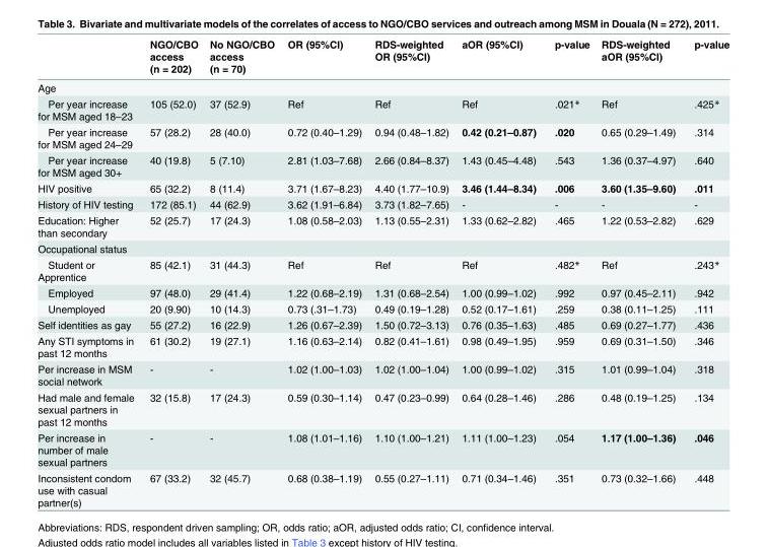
<table><thead><tr><td></td><td>NGO/CBO access (n = 202)</td><td>No NGO/CBO access (n = 70)</td><td>OR (95%CI)</td><td>RDS-weighted OR (95%CI)</td><td>aOR (95%CI)</td><td>p-value</td><td>RDS-weighted aOR (95%CI)</td><td>p-value</td></tr></thead><tbody><tr><td colspan="9">Age</td></tr><tr><td>Per year increase for MSM aged 18–23</td><td>105 (52.0)</td><td>37 (52.9)</td><td>Ref</td><td>Ref</td><td>Ref</td><td>.021*</td><td>Ref</td><td>.425*</td></tr><tr><td>Per year increase for MSM aged 24–29</td><td>57 (28.2)</td><td>28 (40.0)</td><td>0.72 (0.40–1.29)</td><td>0.94 (0.48–1.82)</td><td>0.42 (0.21–0.87)</td><td>.020</td><td>0.65 (0.29–1.49)</td><td>.314</td></tr><tr><td>Per year increase for MSM aged 30+</td><td>40 (19.8)</td><td>5 (7.10)</td><td>2.81 (1.03–7.68)</td><td>2.66 (0.84–8.37)</td><td>1.43 (0.45–4.48)</td><td>.543</td><td>1.36 (0.37–4.97)</td><td>.640</td></tr><tr><td>HIV positive</td><td>65 (32.2)</td><td>8 (11.4)</td><td>3.71 (1.67–8.23)</td><td>4.40 (1.77–10.9)</td><td>3.46 (1.44–8.34)</td><td>.006</td><td>3.60 (1.35–9.60)</td><td>.011</td></tr><tr><td>History of HIV testing</td><td>172 (85.1)</td><td>44 (62.9)</td><td>3.62 (1.91–6.84)</td><td>3.73 (1.82–7.65)</td><td>-</td><td>-</td><td>-</td><td>-</td></tr><tr><td>Education: Higher than secondary</td><td>52 (25.7)</td><td>17 (24.3)</td><td>1.08 (0.58–2.03)</td><td>1.13 (0.55–2.31)</td><td>1.33 (0.62–2.82)</td><td>.465</td><td>1.22 (0.53–2.82)</td><td>.629</td></tr><tr><td colspan="9">Occupational status</td></tr><tr><td>Student or Apprentice</td><td>85 (42.1)</td><td>31 (44.3)</td><td>Ref</td><td>Ref</td><td>Ref</td><td>.482*</td><td>Ref</td><td>.243*</td></tr><tr><td>Employed</td><td>97 (48.0)</td><td>29 (41.4)</td><td>1.22 (0.68–2.19)</td><td>1.31 (0.68–2.54)</td><td>1.00 (0.99–1.02)</td><td>.992</td><td>0.97 (0.45–2.11)</td><td>.942</td></tr><tr><td>Unemployed</td><td>20 (9.90)</td><td>10 (14.3)</td><td>0.73 (.31–1.73)</td><td>0.49 (0.19–1.28)</td><td>0.52 (0.17–1.61)</td><td>.259</td><td>0.38 (0.11–1.25)</td><td>.111</td></tr><tr><td>Self identities as gay</td><td>55 (27.2)</td><td>16 (22.9)</td><td>1.26 (0.67–2.39)</td><td>1.50 (0.72–3.13)</td><td>0.76 (0.35–1.63)</td><td>.485</td><td>0.69 (0.27–1.77)</td><td>.436</td></tr><tr><td>Any STI symptoms in past 12 months</td><td>61 (30.2)</td><td>19 (27.1)</td><td>1.16 (0.63–2.14)</td><td>0.82 (0.41–1.61)</td><td>0.98 (0.49–1.95)</td><td>.959</td><td>0.69 (0.31–1.50)</td><td>.346</td></tr><tr><td>Per increase in MSM social network</td><td>-</td><td>-</td><td>1.02 (1.00–1.03)</td><td>1.02 (1.00–1.04)</td><td>1.00 (0.99–1.02)</td><td>.315</td><td>1.01 (0.99–1.04)</td><td>.318</td></tr><tr><td>Had male and female sexual partners in past 12 months</td><td>32 (15.8)</td><td>17 (24.3)</td><td>0.59 (0.30–1.14)</td><td>0.47 (0.23–0.99)</td><td>0.64 (0.28–1.46)</td><td>.286</td><td>0.48 (0.19–1.25)</td><td>.134</td></tr><tr><td>Per increase in number of male sexual partners</td><td>-</td><td>-</td><td>1.08 (1.01–1.16)</td><td>1.10 (1.00–1.21)</td><td>1.11 (1.00–1.23)</td><td>.054</td><td>1.17 (1.00–1.36)</td><td>.046</td></tr><tr><td>Inconsistent condom use with casual partner(s)</td><td>67 (33.2)</td><td>32 (45.7)</td><td>0.68 (0.38–1.19)</td><td>0.55 (0.27–1.11)</td><td>0.71 (0.34–1.46)</td><td>.351</td><td>0.73 (0.32–1.66)</td><td>.448</td></tr></tbody></table>